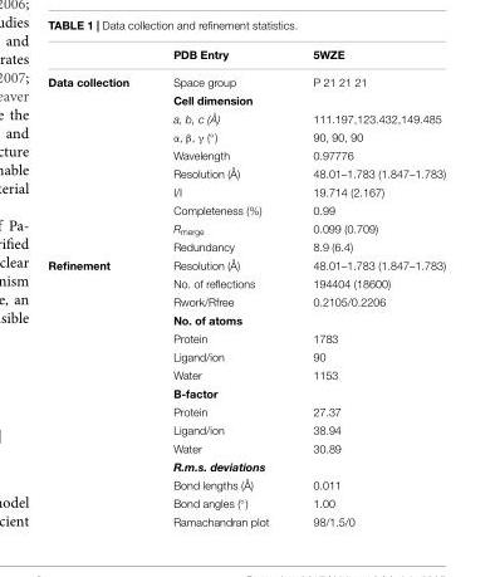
<table><thead><tr><td></td><td>PDB Entry</td><td>5WZE</td></tr></thead><tbody><tr><td rowspan="10">Data collection</td><td>Space group</td><td>P 21 21 21</td></tr><tr><td>Cell dimension</td><td></td></tr><tr><td>a, b, c (Å)</td><td>111.197,123.432,149.485</td></tr><tr><td>α, β, γ (◦)</td><td>90, 90, 90</td></tr><tr><td>Wavelength</td><td>0.97776</td></tr><tr><td>Resolution (Å)</td><td>48.01–1.783 (1.847–1.783)</td></tr><tr><td>I/I</td><td>19.714 (2.167)</td></tr><tr><td>Completeness (%)</td><td>0.99</td></tr><tr><td>R<sub>merge</sub></td><td>0.099 (0.709)</td></tr><tr><td>Redundancy</td><td>8.9 (6.4)</td></tr><tr><td rowspan="15">Refinement</td><td>Resolution (Å)</td><td>48.01–1.783 (1.847–1.783)</td></tr><tr><td>No. of reflections</td><td>194404 (18600)</td></tr><tr><td>Rwork/Rfree</td><td>0.2105/0.2206</td></tr><tr><td>No. of atoms</td><td></td></tr><tr><td>Protein</td><td>1783</td></tr><tr><td>Ligand/ion</td><td>90</td></tr><tr><td>Water</td><td>1153</td></tr><tr><td>B-factor</td><td></td></tr><tr><td>Protein</td><td>27.37</td></tr><tr><td>Ligand/ion</td><td>38.94</td></tr><tr><td>Water</td><td>30.89</td></tr><tr><td>R.m.s. deviations</td><td></td></tr><tr><td>Bond lengths (Å)</td><td>0.011</td></tr><tr><td>Bond angles (◦)</td><td>1.00</td></tr><tr><td>Ramachandran plot</td><td>98/1.5/0</td></tr></tbody></table>